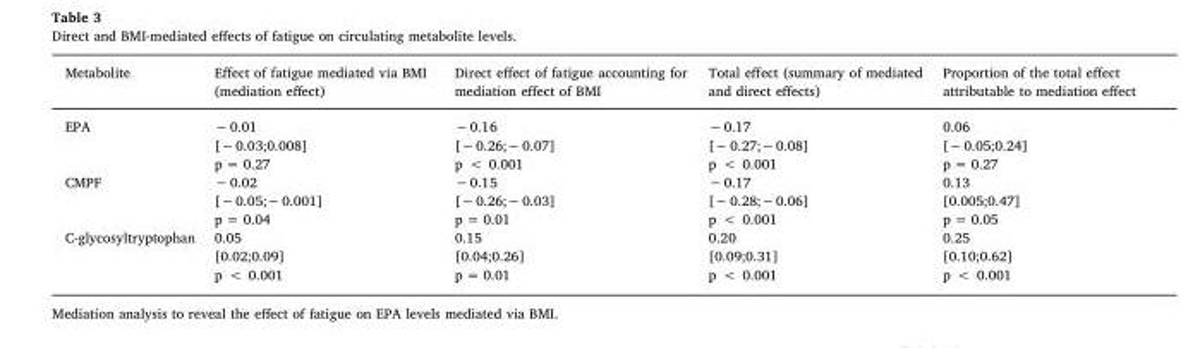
<table><thead><tr><td>Metabolite</td><td>Effect of fatigue mediated via BMI (mediation effect)</td><td>Direct effect of fatigue accounting for mediation effect of BMI</td><td>Total effect (summary of mediated and direct effects)</td><td>Proportion of the total effect attributable to mediation effect</td></tr></thead><tbody><tr><td>EPA</td><td>−0.01 [−0.03;0.008] p = 0.27</td><td>−0.16 [−0.26;−0.07] p &lt; 0.001</td><td>−0.17 [−0.27;−0.08] p &lt; 0.001</td><td>0.06 [−0.05;0.24] p = 0.27</td></tr><tr><td>CMPF</td><td>−0.02 [−0.05;−0.001] p = 0.04</td><td>−0.15 [−0.26;−0.03] p = 0.01</td><td>−0.17 [−0.28;−0.06] p &lt; 0.001</td><td>0.13 [0.005;0.47] p = 0.05</td></tr><tr><td>C-glycosyltryptophan</td><td>0.05 [0.02;0.09] p &lt; 0.001</td><td>0.15 [0.04;0.26] p = 0.01</td><td>0.20 [0.09;0.31] p &lt; 0.001</td><td>0.25 [0.10;0.62] p &lt; 0.001</td></tr></tbody></table>